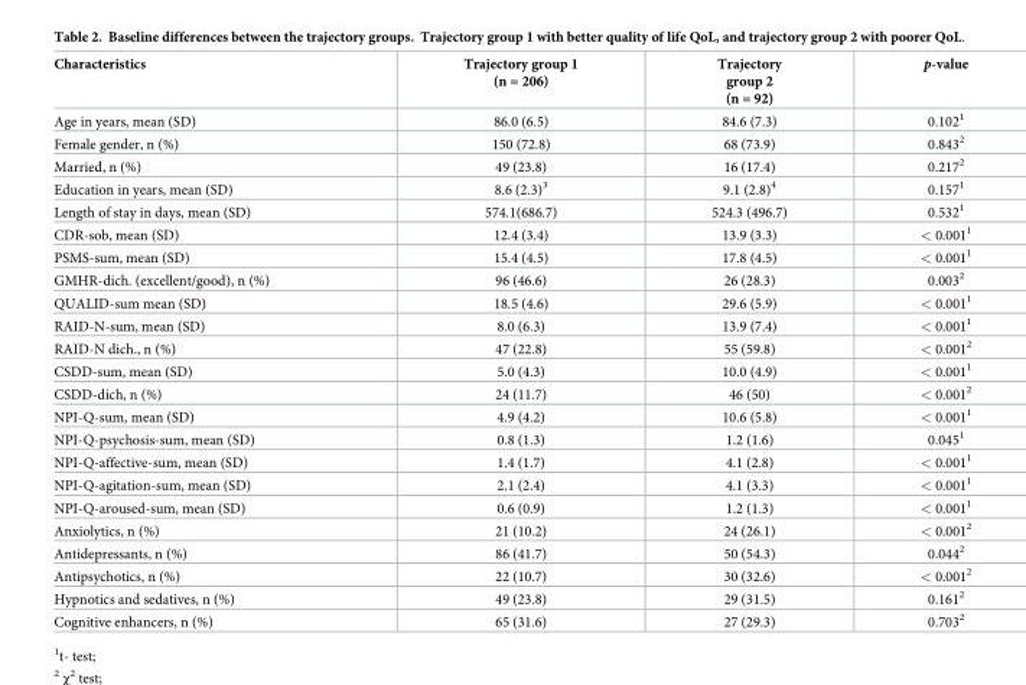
<table><thead><tr><td>Characteristics</td><td>Trajectory group 1 (n = 206)</td><td>Trajectory group 2 (n = 92)</td><td>p-value</td></tr></thead><tbody><tr><td>Age in years, mean (SD)</td><td>86.0 (6.5)</td><td>84.6 (7.3)</td><td>0.102<sup>1</sup></td></tr><tr><td>Female gender, n (%)</td><td>150 (72.8)</td><td>68 (73.9)</td><td>0.843<sup>2</sup></td></tr><tr><td>Married, n (%)</td><td>49 (23.8)</td><td>16 (17.4)</td><td>0.217<sup>2</sup></td></tr><tr><td>Education in years, mean (SD)</td><td>8.6 (2.3)<sup>3</sup></td><td>9.1 (2.8)<sup>4</sup></td><td>0.157<sup>1</sup></td></tr><tr><td>Length of stay in days, mean (SD)</td><td>574.1(686.7)</td><td>524.3 (496.7)</td><td>0.532<sup>1</sup></td></tr><tr><td>CDR-sob, mean (SD)</td><td>12.4 (3.4)</td><td>13.9 (3.3)</td><td>&lt; 0.001<sup>1</sup></td></tr><tr><td>PSMS-sum, mean (SD)</td><td>15.4 (4.5)</td><td>17.8 (4.5)</td><td>&lt; 0.001<sup>1</sup></td></tr><tr><td>GMHR-dich. (excellent/good), n (%)</td><td>96 (46.6)</td><td>26 (28.3)</td><td>0.003<sup>2</sup></td></tr><tr><td>QUALID-sum mean (SD)</td><td>18.5 (4.6)</td><td>29.6 (5.9)</td><td>&lt; 0.001<sup>1</sup></td></tr><tr><td>RAID-N-sum, mean (SD)</td><td>8.0 (6.3)</td><td>13.9 (7.4)</td><td>&lt; 0.001<sup>1</sup></td></tr><tr><td>RAID-N dich., n (%)</td><td>47 (22.8)</td><td>55 (59.8)</td><td>&lt; 0.001<sup>2</sup></td></tr><tr><td>CSDD-sum, mean (SD)</td><td>5.0 (4.3)</td><td>10.0 (4.9)</td><td>&lt; 0.001<sup>1</sup></td></tr><tr><td>CSDD-dich, n (%)</td><td>24 (11.7)</td><td>46 (50)</td><td>&lt; 0.001<sup>2</sup></td></tr><tr><td>NPI-Q-sum, mean (SD)</td><td>4.9 (4.2)</td><td>10.6 (5.8)</td><td>&lt; 0.001<sup>1</sup></td></tr><tr><td>NPI-Q-psychosis-sum, mean (SD)</td><td>0.8 (1.3)</td><td>1.2 (1.6)</td><td>0.045<sup>1</sup></td></tr><tr><td>NPI-Q-affective-sum, mean (SD)</td><td>1.4 (1.7)</td><td>4.1 (2.8)</td><td>&lt; 0.001<sup>1</sup></td></tr><tr><td>NPI-Q-agitation-sum, mean (SD)</td><td>2.1 (2.4)</td><td>4.1 (3.3)</td><td>&lt; 0.001<sup>1</sup></td></tr><tr><td>NPI-Q-aroused-sum, mean (SD)</td><td>0.6 (0.9)</td><td>1.2 (1.3)</td><td>&lt; 0.001<sup>1</sup></td></tr><tr><td>Anxiolytics, n (%)</td><td>21 (10.2)</td><td>24 (26.1)</td><td>&lt; 0.001<sup>2</sup></td></tr><tr><td>Antidepressants, n (%)</td><td>86 (41.7)</td><td>50 (54.3)</td><td>0.044<sup>2</sup></td></tr><tr><td>Antipsychotics, n (%)</td><td>22 (10.7)</td><td>30 (32.6)</td><td>&lt; 0.001<sup>2</sup></td></tr><tr><td>Hypnotics and sedatives, n (%)</td><td>49 (23.8)</td><td>29 (31.5)</td><td>0.161<sup>2</sup></td></tr><tr><td>Cognitive enhancers, n (%)</td><td>65 (31.6)</td><td>27 (29.3)</td><td>0.703<sup>2</sup></td></tr></tbody></table>